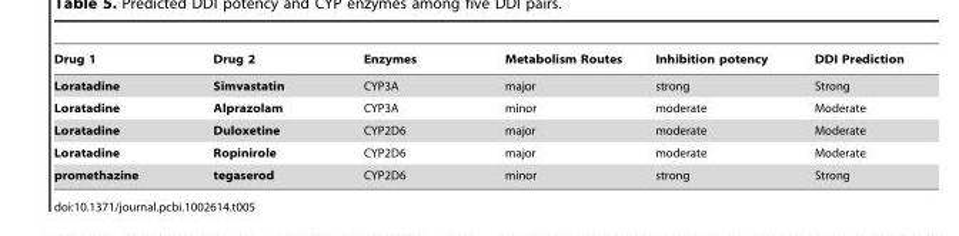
<table><thead><tr><td>Drug 1</td><td>Drug 2</td><td>Enzymes</td><td>Metabolism Routes</td><td>Inhibition potency</td><td>DDI Prediction</td></tr></thead><tbody><tr><td>Loratadine</td><td>Simvastatin</td><td>CYP3A</td><td>major</td><td>strong</td><td>Strong</td></tr><tr><td>Loratadine</td><td>Alprazolam</td><td>CYP3A</td><td>minor</td><td>moderate</td><td>Moderate</td></tr><tr><td>Loratadine</td><td>Duloxetine</td><td>CYP2D6</td><td>major</td><td>moderate</td><td>Moderate</td></tr><tr><td>Loratadine</td><td>Ropinirole</td><td>CYP2D6</td><td>major</td><td>moderate</td><td>Moderate</td></tr><tr><td>promethazine</td><td>tegaserod</td><td>CYP2D6</td><td>minor</td><td>strong</td><td>Strong</td></tr></tbody></table>